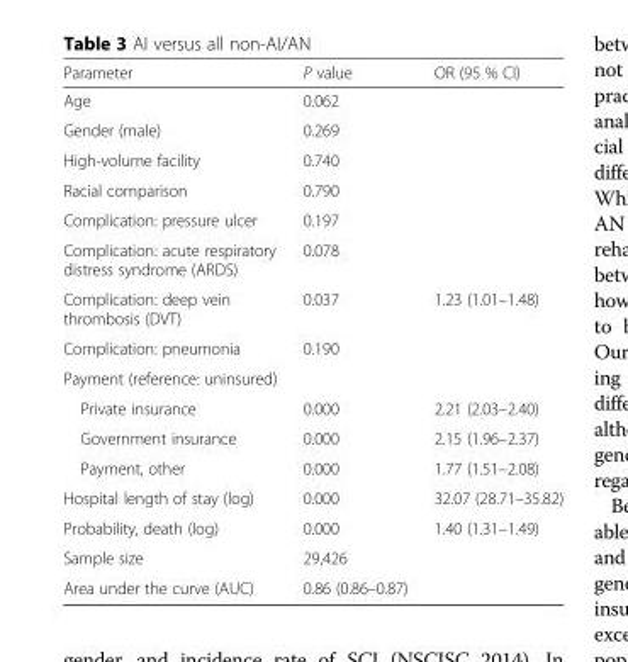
<table><thead><tr><td>Parameter</td><td>P value</td><td>OR (95 % CI)</td></tr></thead><tbody><tr><td>Age</td><td>0.062</td><td></td></tr><tr><td>Gender (male)</td><td>0.269</td><td></td></tr><tr><td>High-volume facility</td><td>0.740</td><td></td></tr><tr><td>Racial comparison</td><td>0.790</td><td></td></tr><tr><td>Complication: pressure ulcer</td><td>0.197</td><td></td></tr><tr><td>Complication: acute respiratory distress syndrome (ARDS)</td><td>0.078</td><td></td></tr><tr><td>Complication: deep vein thrombosis (DVT)</td><td>0.037</td><td>1.23 (1.01–1.48)</td></tr><tr><td>Complication: pneumonia</td><td>0.190</td><td></td></tr><tr><td colspan="3">Payment (reference: uninsured)</td></tr><tr><td>Private insurance</td><td>0.000</td><td>2.21 (2.03–2.40)</td></tr><tr><td>Government insurance</td><td>0.000</td><td>2.15 (1.96–2.37)</td></tr><tr><td>Payment, other</td><td>0.000</td><td>1.77 (1.51–2.08)</td></tr><tr><td>Hospital length of stay (log)</td><td>0.000</td><td>32.07 (28.71–35.82)</td></tr><tr><td>Probability, death (log)</td><td>0.000</td><td>1.40 (1.31–1.49)</td></tr><tr><td>Sample size</td><td>29,426</td><td></td></tr><tr><td>Area under the curve (AUC)</td><td>0.86 (0.86–0.87)</td><td></td></tr></tbody></table>